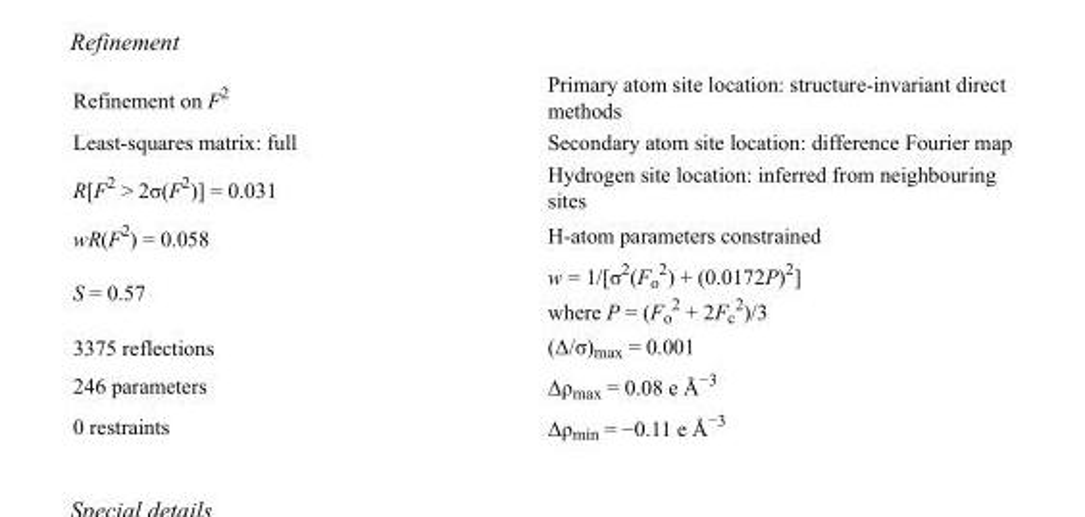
<table><tbody><tr><td>Refinement on F<sup>2</sup></td><td>Primary atom site location: structure-invariant direct methods</td></tr><tr><td>Least-squares matrix: full</td><td>Secondary atom site location: difference Fourier map</td></tr><tr><td>R[F<sup>2</sup> &gt; 2σ(F<sup>2</sup>)] = 0.031</td><td>Hydrogen site location: inferred from neighbouring sites</td></tr><tr><td>wR(F<sup>2</sup>) = 0.058</td><td>H-atom parameters constrained</td></tr><tr><td>S = 0.57</td><td>w = 1/[σ<sup>2</sup>(F<sub>o</sub> <sup>2</sup>) + (0.0172P)<sup>2</sup>] where P = (F<sub>o</sub> <sup>2</sup> + 2F<sub>c</sub> <sup>2</sup>)/3</td></tr><tr><td>3375 reflections</td><td>(Δ/σ)<sub>max</sub> = 0.001</td></tr><tr><td>246 parameters</td><td>Δρ<sub>max</sub> = 0.08 e Å<sup>−3</sup></td></tr><tr><td>0 restraints</td><td>Δρ<sub>min</sub> = −0.11 e Å<sup>−3</sup></td></tr></tbody></table>